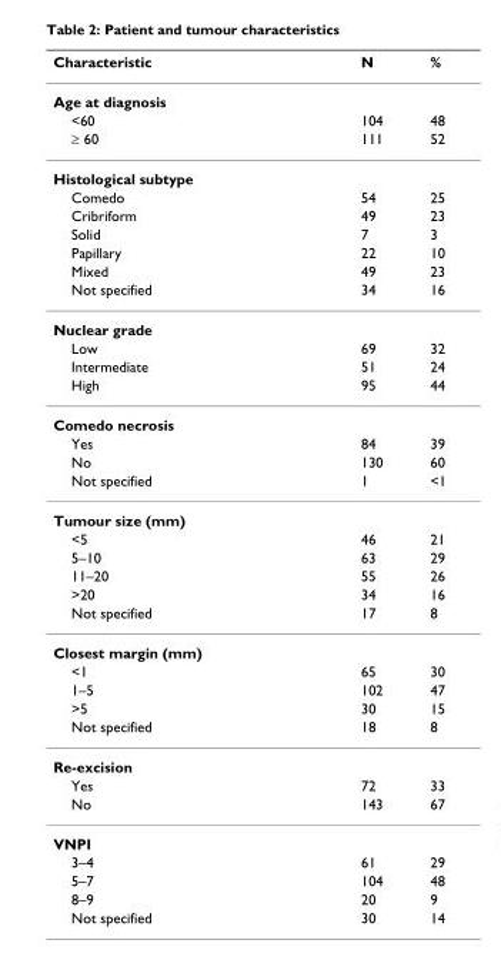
<table><thead><tr><td>Characteristic</td><td>N</td><td>%</td></tr></thead><tbody><tr><td colspan="3">Age at diagnosis</td></tr><tr><td>&lt;60</td><td>104</td><td>48</td></tr><tr><td>≥ 60</td><td>111</td><td>52</td></tr><tr><td colspan="3">Histological subtype</td></tr><tr><td>Comedo</td><td>54</td><td>25</td></tr><tr><td>Cribriform</td><td>49</td><td>23</td></tr><tr><td>Solid</td><td>7</td><td>3</td></tr><tr><td>Papillary</td><td>22</td><td>10</td></tr><tr><td>Mixed</td><td>49</td><td>23</td></tr><tr><td>Not specified</td><td>34</td><td>16</td></tr><tr><td colspan="3">Nuclear grade</td></tr><tr><td>Low</td><td>69</td><td>32</td></tr><tr><td>Intermediate</td><td>51</td><td>24</td></tr><tr><td>High</td><td>95</td><td>44</td></tr><tr><td colspan="3">Comedo necrosis</td></tr><tr><td>Yes</td><td>84</td><td>39</td></tr><tr><td>No</td><td>130</td><td>60</td></tr><tr><td>Not specified</td><td>1</td><td>&lt;1</td></tr><tr><td colspan="3">Tumour size (mm)</td></tr><tr><td>&lt;5</td><td>46</td><td>21</td></tr><tr><td>5–10</td><td>63</td><td>29</td></tr><tr><td>11–20</td><td>55</td><td>26</td></tr><tr><td>&gt;20</td><td>34</td><td>16</td></tr><tr><td>Not specified</td><td>17</td><td>8</td></tr><tr><td colspan="3">Closest margin (mm)</td></tr><tr><td>&lt;1</td><td>65</td><td>30</td></tr><tr><td>1–5</td><td>102</td><td>47</td></tr><tr><td>&gt;5</td><td>30</td><td>15</td></tr><tr><td>Not specified</td><td>18</td><td>8</td></tr><tr><td colspan="3">Re-excision</td></tr><tr><td>Yes</td><td>72</td><td>33</td></tr><tr><td>No</td><td>143</td><td>67</td></tr><tr><td colspan="3">VNPI</td></tr><tr><td>3–4</td><td>61</td><td>29</td></tr><tr><td>5–7</td><td>104</td><td>48</td></tr><tr><td>8–9</td><td>20</td><td>9</td></tr><tr><td>Not specified</td><td>30</td><td>14</td></tr></tbody></table>